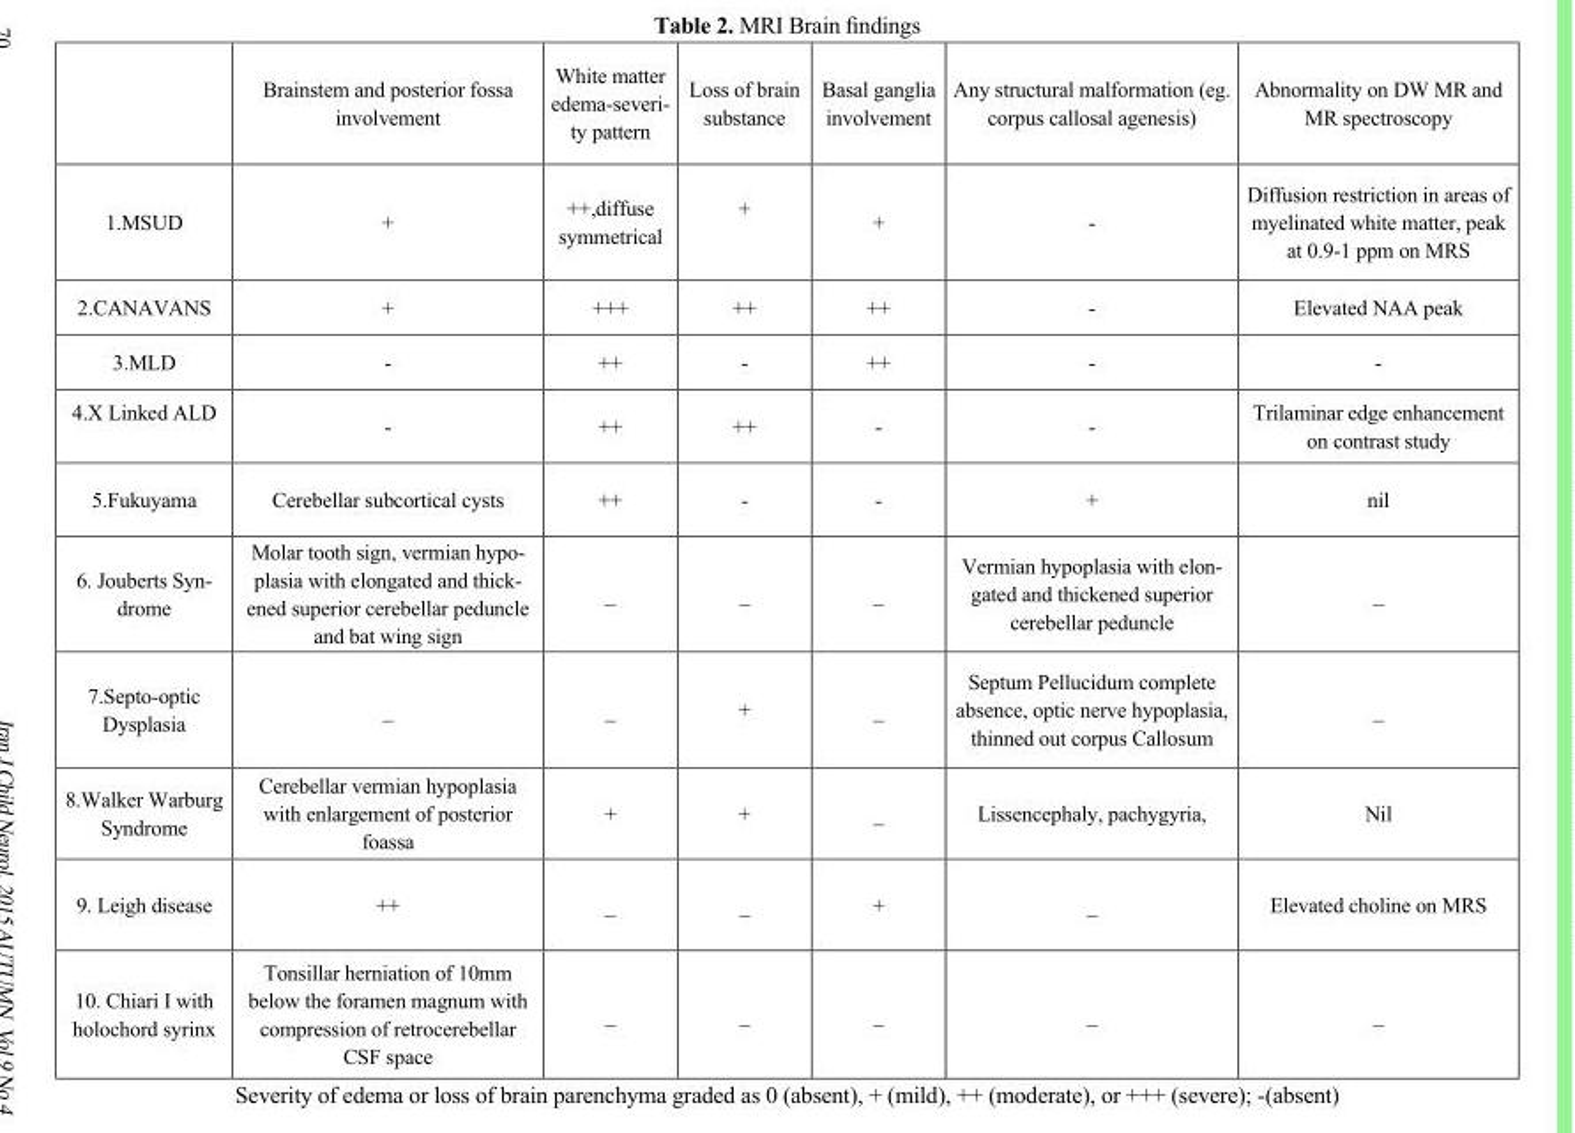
<table><thead><tr><td></td><td>Brainstem and posterior fossa involvement</td><td>White matter edema-severi- ty pattern</td><td>Loss of brain substance</td><td>Basal ganglia involvement</td><td>Any structural malformation (eg. corpus callosal agenesis)</td><td>Abnormality on DW MR and MR spectroscopy</td></tr></thead><tbody><tr><td>1.MSUD</td><td>+</td><td>++,diffuse symmetrical</td><td>+</td><td>+</td><td>-</td><td>Diffusion restriction in areas of myelinated white matter, peak at 0.9-1 ppm on MRS</td></tr><tr><td>2.CANAVANS</td><td>+</td><td>+++</td><td>++</td><td>++</td><td>-</td><td>Elevated NAA peak</td></tr><tr><td>3.MLD</td><td>-</td><td>++</td><td>-</td><td>++</td><td>-</td><td>-</td></tr><tr><td>4.X Linked ALD</td><td>-</td><td>++</td><td>++</td><td>-</td><td>-</td><td>Trilaminar edge enhancement on contrast study</td></tr><tr><td>5.Fukuyama</td><td>Cerebellar subcortical cysts</td><td>++</td><td>-</td><td>-</td><td>+</td><td>nil</td></tr><tr><td>6. Jouberts Syn- drome</td><td>Molar tooth sign, vermian hypo- plasia with elongated and thick- ened superior cerebellar peduncle and bat wing sign</td><td>_</td><td>_</td><td>_</td><td>Vermian hypoplasia with elon- gated and thickened superior cerebellar peduncle</td><td>_</td></tr><tr><td>7.Septo-optic Dysplasia</td><td>_</td><td>_</td><td>+</td><td>_</td><td>Septum Pellucidum complete absence, optic nerve hypoplasia, thinned out corpus Callosum</td><td>_</td></tr><tr><td>8.Walker Warburg Syndrome</td><td>Cerebellar vermian hypoplasia with enlargement of posterior foassa</td><td>+</td><td>+</td><td>_</td><td>Lissencephaly, pachygyria,</td><td>Nil</td></tr><tr><td>9. Leigh disease</td><td>++</td><td>_</td><td>_</td><td>+</td><td>_</td><td>Elevated choline on MRS</td></tr><tr><td>10. Chiari I with holochord syrinx</td><td>Tonsillar herniation of 10mm below the foramen magnum with compression of retrocerebellar CSF space</td><td>_</td><td>_</td><td>_</td><td>_</td><td>_</td></tr></tbody></table>